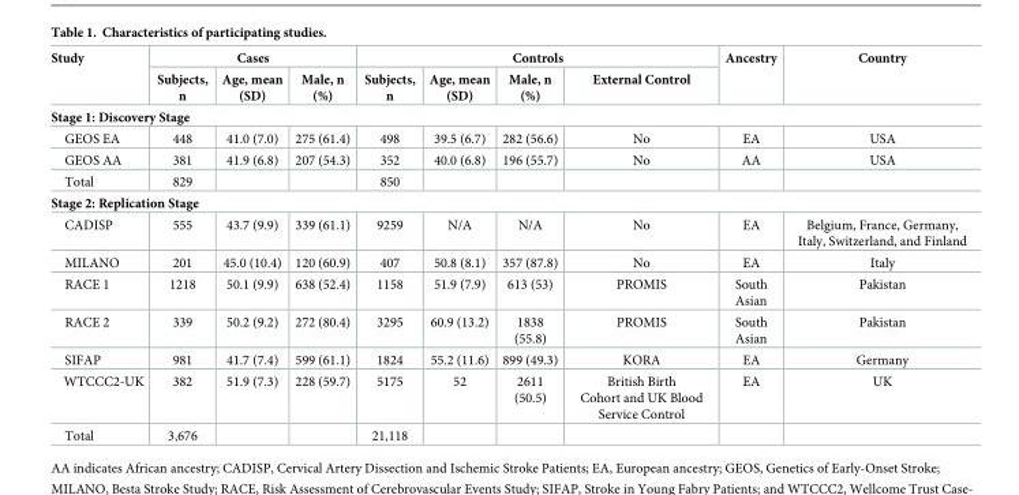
<table><thead><tr><td rowspan="2">Study</td><td colspan="3">Cases</td><td colspan="4">Controls</td><td rowspan="2">Ancestry</td><td rowspan="2">Country</td></tr><tr><td>Subjects, n</td><td>Age, mean (SD)</td><td>Male, n (%)</td><td>Subjects, n</td><td>Age, mean (SD)</td><td>Male, n (%)</td><td>External Control</td></tr></thead><tbody><tr><td colspan="10">Stage 1: Discovery Stage</td></tr><tr><td>GEOS EA</td><td>448</td><td>41.0 (7.0)</td><td>275 (61.4)</td><td>498</td><td>39.5 (6.7)</td><td>282 (56.6)</td><td>No</td><td>EA</td><td>USA</td></tr><tr><td>GEOS AA</td><td>381</td><td>41.9 (6.8)</td><td>207 (54.3)</td><td>352</td><td>40.0 (6.8)</td><td>196 (55.7)</td><td>No</td><td>AA</td><td>USA</td></tr><tr><td>Total</td><td>829</td><td></td><td></td><td>850</td><td></td><td></td><td></td><td></td><td></td></tr><tr><td colspan="10">Stage 2: Replication Stage</td></tr><tr><td>CADISP</td><td>555</td><td>43.7 (9.9)</td><td>339 (61.1)</td><td>9259</td><td>N/A</td><td>N/A</td><td>No</td><td>EA</td><td>Belgium, France, Germany, Italy, Switzerland, and Finland</td></tr><tr><td>MILANO</td><td>201</td><td>45.0 (10.4)</td><td>120 (60.9)</td><td>407</td><td>50.8 (8.1)</td><td>357 (87.8)</td><td>No</td><td>EA</td><td>Italy</td></tr><tr><td>RACE 1</td><td>1218</td><td>50.1 (9.9)</td><td>638 (52.4)</td><td>1158</td><td>51.9 (7.9)</td><td>613 (53)</td><td>PROMIS</td><td>South Asian</td><td>Pakistan</td></tr><tr><td>RACE 2</td><td>339</td><td>50.2 (9.2)</td><td>272 (80.4)</td><td>3295</td><td>60.9 (13.2)</td><td>1838 (55.8)</td><td>PROMIS</td><td>South Asian</td><td>Pakistan</td></tr><tr><td>SIFAP</td><td>981</td><td>41.7 (7.4)</td><td>599 (61.1)</td><td>1824</td><td>55.2 (11.6)</td><td>899 (49.3)</td><td>KORA</td><td>EA</td><td>Germany</td></tr><tr><td>WTCCC2-UK</td><td>382</td><td>51.9 (7.3)</td><td>228 (59.7)</td><td>5175</td><td>52</td><td>2611 (50.5)</td><td>British Birth Cohort and UK Blood Service Control</td><td>EA</td><td>UK</td></tr><tr><td>Total</td><td>3,676</td><td></td><td></td><td>21,118</td><td></td><td></td><td></td><td></td><td></td></tr></tbody></table>